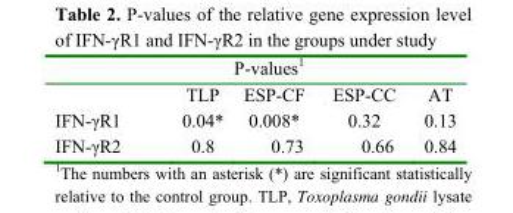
<table><thead><tr><td colspan="5">P-values<sup>1</sup></td></tr><tr><td></td><td>TLP</td><td>ESP-CF</td><td>ESP-CC</td><td>AT</td></tr></thead><tbody><tr><td>IFN-γR1</td><td>0.04*</td><td>0.008*</td><td>0.32</td><td>0.13</td></tr><tr><td>IFN-γR2</td><td>0.8</td><td>0.73</td><td>0.66</td><td>0.84</td></tr></tbody></table>